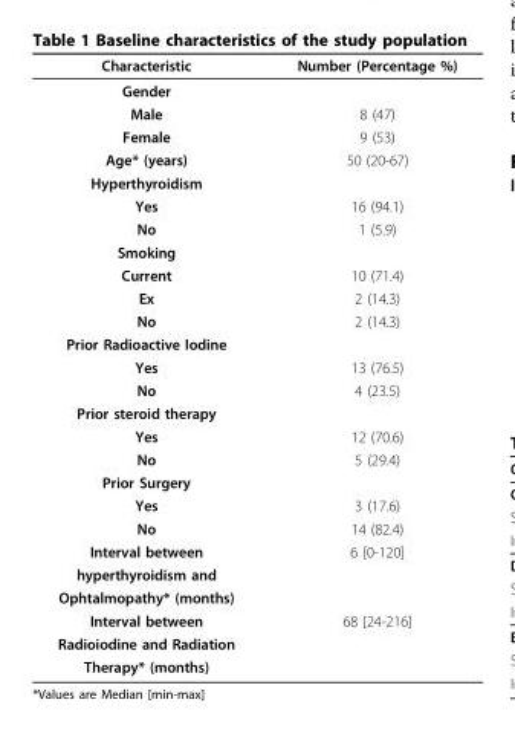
<table><thead><tr><td>Characteristic</td><td>Number (Percentage %)</td></tr></thead><tbody><tr><td colspan="2">Gender</td></tr><tr><td>Male</td><td>8 (47)</td></tr><tr><td>Female</td><td>9 (53)</td></tr><tr><td>Age* (years)</td><td>50 (20-67)</td></tr><tr><td colspan="2">Hyperthyroidism</td></tr><tr><td>Yes</td><td>16 (94.1)</td></tr><tr><td>No</td><td>1 (5.9)</td></tr><tr><td colspan="2">Smoking</td></tr><tr><td>Current</td><td>10 (71.4)</td></tr><tr><td>Ex</td><td>2 (14.3)</td></tr><tr><td>No</td><td>2 (14.3)</td></tr><tr><td colspan="2">Prior Radioactive Iodine</td></tr><tr><td>Yes</td><td>13 (76.5)</td></tr><tr><td>No</td><td>4 (23.5)</td></tr><tr><td colspan="2">Prior steroid therapy</td></tr><tr><td>Yes</td><td>12 (70.6)</td></tr><tr><td>No</td><td>5 (29.4)</td></tr><tr><td colspan="2">Prior Surgery</td></tr><tr><td>Yes</td><td>3 (17.6)</td></tr><tr><td>No</td><td>14 (82.4)</td></tr><tr><td>Interval between</td><td>6 [0-120]</td></tr><tr><td colspan="2">hyperthyroidism and</td></tr><tr><td colspan="2">Ophtalmopathy* (months)</td></tr><tr><td>Interval between</td><td>68 [24-216]</td></tr><tr><td colspan="2">Radioiodine and Radiation</td></tr><tr><td>Therapy* (months)</td><td></td></tr></tbody></table>